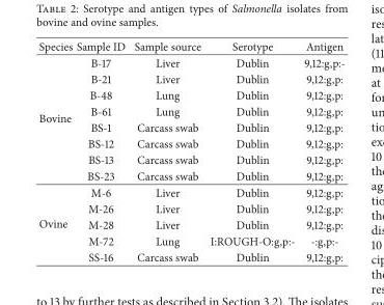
<table><thead><tr><td>Species</td><td>Sample ID</td><td>Sample source</td><td>Serotype</td><td>Antigen</td></tr></thead><tbody><tr><td rowspan="8">Bovine</td><td>B-17</td><td>Liver</td><td>Dublin</td><td>9,12:g,p:-</td></tr><tr><td>B-21</td><td>Liver</td><td>Dublin</td><td>9,12:g,p:</td></tr><tr><td>B-48</td><td>Lung</td><td>Dublin</td><td>9,12:g,p:</td></tr><tr><td>B-61</td><td>Lung</td><td>Dublin</td><td>9,12:g,p:</td></tr><tr><td>BS-1</td><td>Carcass swab</td><td>Dublin</td><td>9,12:g,p:</td></tr><tr><td>BS-12</td><td>Carcass swab</td><td>Dublin</td><td>9,12:g,p:</td></tr><tr><td>BS-13</td><td>Carcass swab</td><td>Dublin</td><td>9,12:g,p:</td></tr><tr><td>BS-23</td><td>Carcass swab</td><td>Dublin</td><td>9,12:g,p:</td></tr><tr><td rowspan="5">Ovine</td><td>M-6</td><td>Liver</td><td>Dublin</td><td>9,12:g,p:</td></tr><tr><td>M-26</td><td>Liver</td><td>Dublin</td><td>9,12:g,p:</td></tr><tr><td>M-28</td><td>Liver</td><td>Dublin</td><td>9,12:g,p:</td></tr><tr><td>M-72</td><td>Lung</td><td>I:ROUGH-O:g,p:-</td><td>-:g,p:-</td></tr><tr><td>SS-16</td><td>Carcass swab</td><td>Dublin</td><td>9,12:g,p:</td></tr></tbody></table>